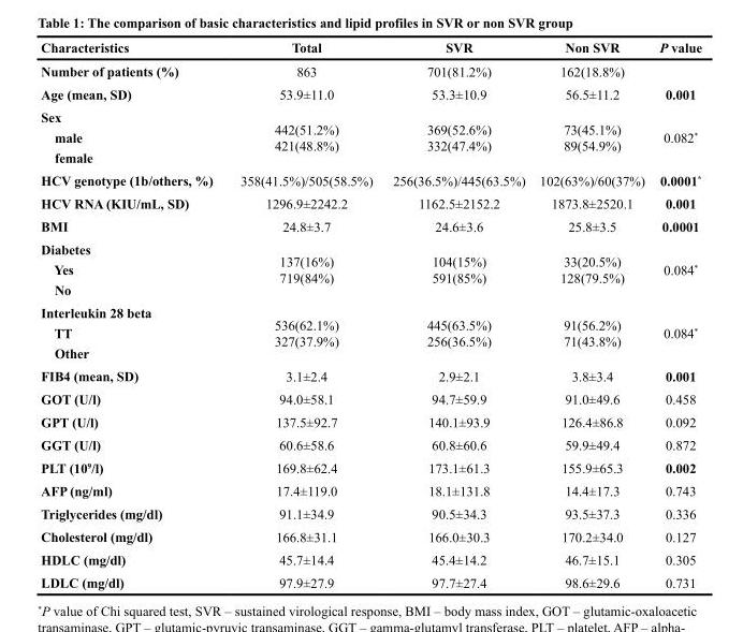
<table><thead><tr><td>Characteristics</td><td>Total</td><td>SVR</td><td>Non SVR</td><td>P value</td></tr></thead><tbody><tr><td>Number of patients (%)</td><td>863</td><td>701(81.2%)</td><td>162(18.8%)</td><td></td></tr><tr><td>Age (mean, SD)</td><td>53.9±11.0</td><td>53.3±10.9</td><td>56.5±11.2</td><td>0.001</td></tr><tr><td>Sex male female</td><td>442(51.2%) 421(48.8%)</td><td>369(52.6%) 332(47.4%)</td><td>73(45.1%) 89(54.9%)</td><td>0.082*</td></tr><tr><td>HCV genotype (1b/others, %)</td><td>358(41.5%)/505(58.5%)</td><td>256(36.5%)/445(63.5%)</td><td>102(63%)/60(37%)</td><td>0.0001*</td></tr><tr><td>HCV RNA (KIU/mL, SD)</td><td>1296.9±2242.2</td><td>1162.5±2152.2</td><td>1873.8±2520.1</td><td>0.001</td></tr><tr><td>BMI</td><td>24.8±3.7</td><td>24.6±3.6</td><td>25.8±3.5</td><td>0.0001</td></tr><tr><td>Diabetes Yes No</td><td>137(16%) 719(84%)</td><td>104(15%) 591(85%)</td><td>33(20.5%) 128(79.5%)</td><td>0.084*</td></tr><tr><td>Interleukin 28 beta TT Other</td><td>536(62.1%) 327(37.9%)</td><td>445(63.5%) 256(36.5%)</td><td>91(56.2%) 71(43.8%)</td><td>0.084*</td></tr><tr><td>FIB4 (mean, SD)</td><td>3.1±2.4</td><td>2.9±2.1</td><td>3.8±3.4</td><td>0.001</td></tr><tr><td>GOT (U/l)</td><td>94.0±58.1</td><td>94.7±59.9</td><td>91.0±49.6</td><td>0.458</td></tr><tr><td>GPT (U/l)</td><td>137.5±92.7</td><td>140.1±93.9</td><td>126.4±86.8</td><td>0.092</td></tr><tr><td>GGT (U/l)</td><td>60.6±58.6</td><td>60.8±60.6</td><td>59.9±49.4</td><td>0.872</td></tr><tr><td>PLT (10<sup>9</sup>/l)</td><td>169.8±62.4</td><td>173.1±61.3</td><td>155.9±65.3</td><td>0.002</td></tr><tr><td>AFP (ng/ml)</td><td>17.4±119.0</td><td>18.1±131.8</td><td>14.4±17.3</td><td>0.743</td></tr><tr><td>Triglycerides (mg/dl)</td><td>91.1±34.9</td><td>90.5±34.3</td><td>93.5±37.3</td><td>0.336</td></tr><tr><td>Cholesterol (mg/dl)</td><td>166.8±31.1</td><td>166.0±30.3</td><td>170.2±34.0</td><td>0.127</td></tr><tr><td>HDLC (mg/dl)</td><td>45.7±14.4</td><td>45.4±14.2</td><td>46.7±15.1</td><td>0.305</td></tr><tr><td>LDLC (mg/dl)</td><td>97.9±27.9</td><td>97.7±27.4</td><td>98.6±29.6</td><td>0.731</td></tr></tbody></table>